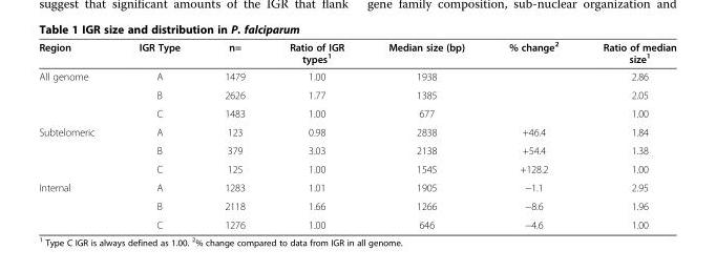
<table><thead><tr><td>Region</td><td>IGR Type</td><td>n=</td><td>Ratio of IGR types<sup>1</sup></td><td>Median size (bp)</td><td>% change<sup>2</sup></td><td>Ratio of median size<sup>1</sup></td></tr></thead><tbody><tr><td rowspan="3">All genome</td><td>A</td><td>1479</td><td>1.00</td><td>1938</td><td></td><td>2.86</td></tr><tr><td>B</td><td>2626</td><td>1.77</td><td>1385</td><td></td><td>2.05</td></tr><tr><td>C</td><td>1483</td><td>1.00</td><td>677</td><td></td><td>1.00</td></tr><tr><td rowspan="3">Subtelomeric</td><td>A</td><td>123</td><td>0.98</td><td>2838</td><td>+46.4</td><td>1.84</td></tr><tr><td>B</td><td>379</td><td>3.03</td><td>2138</td><td>+54.4</td><td>1.38</td></tr><tr><td>C</td><td>125</td><td>1.00</td><td>1545</td><td>+128.2</td><td>1.00</td></tr><tr><td rowspan="3">Internal</td><td>A</td><td>1283</td><td>1.01</td><td>1905</td><td>−1.1</td><td>2.95</td></tr><tr><td>B</td><td>2118</td><td>1.66</td><td>1266</td><td>−8.6</td><td>1.96</td></tr><tr><td>C</td><td>1276</td><td>1.00</td><td>646</td><td>−4.6</td><td>1.00</td></tr></tbody></table>